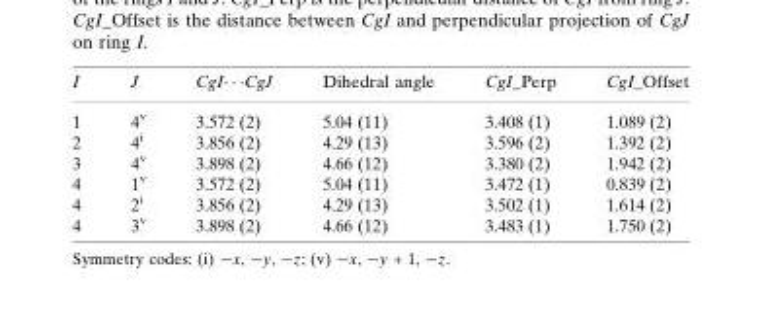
<table><thead><tr><td>I</td><td>J</td><td>CgI� � �CgJ</td><td>Dihedral angle</td><td>CgI_Perp</td><td>CgI_Offset</td></tr></thead><tbody><tr><td>1</td><td>4<sup>v</sup></td><td>3.572 (2)</td><td>5.04 (11)</td><td>3.408 (1)</td><td>1.089 (2)</td></tr><tr><td>2</td><td>4<sup>i</sup></td><td>3.856 (2)</td><td>4.29 (13)</td><td>3.596 (2)</td><td>1.392 (2)</td></tr><tr><td>3</td><td>4<sup>v</sup></td><td>3.898 (2)</td><td>4.66 (12)</td><td>3.380 (2)</td><td>1.942 (2)</td></tr><tr><td>4</td><td>1<sup>v</sup></td><td>3.572 (2)</td><td>5.04 (11)</td><td>3.472 (1)</td><td>0.839 (2)</td></tr><tr><td>4</td><td>2<sup>i</sup></td><td>3.856 (2)</td><td>4.29 (13)</td><td>3.502 (1)</td><td>1.614 (2)</td></tr><tr><td>4</td><td>3<sup>v</sup></td><td>3.898 (2)</td><td>4.66 (12)</td><td>3.483 (1)</td><td>1.750 (2)</td></tr></tbody></table>